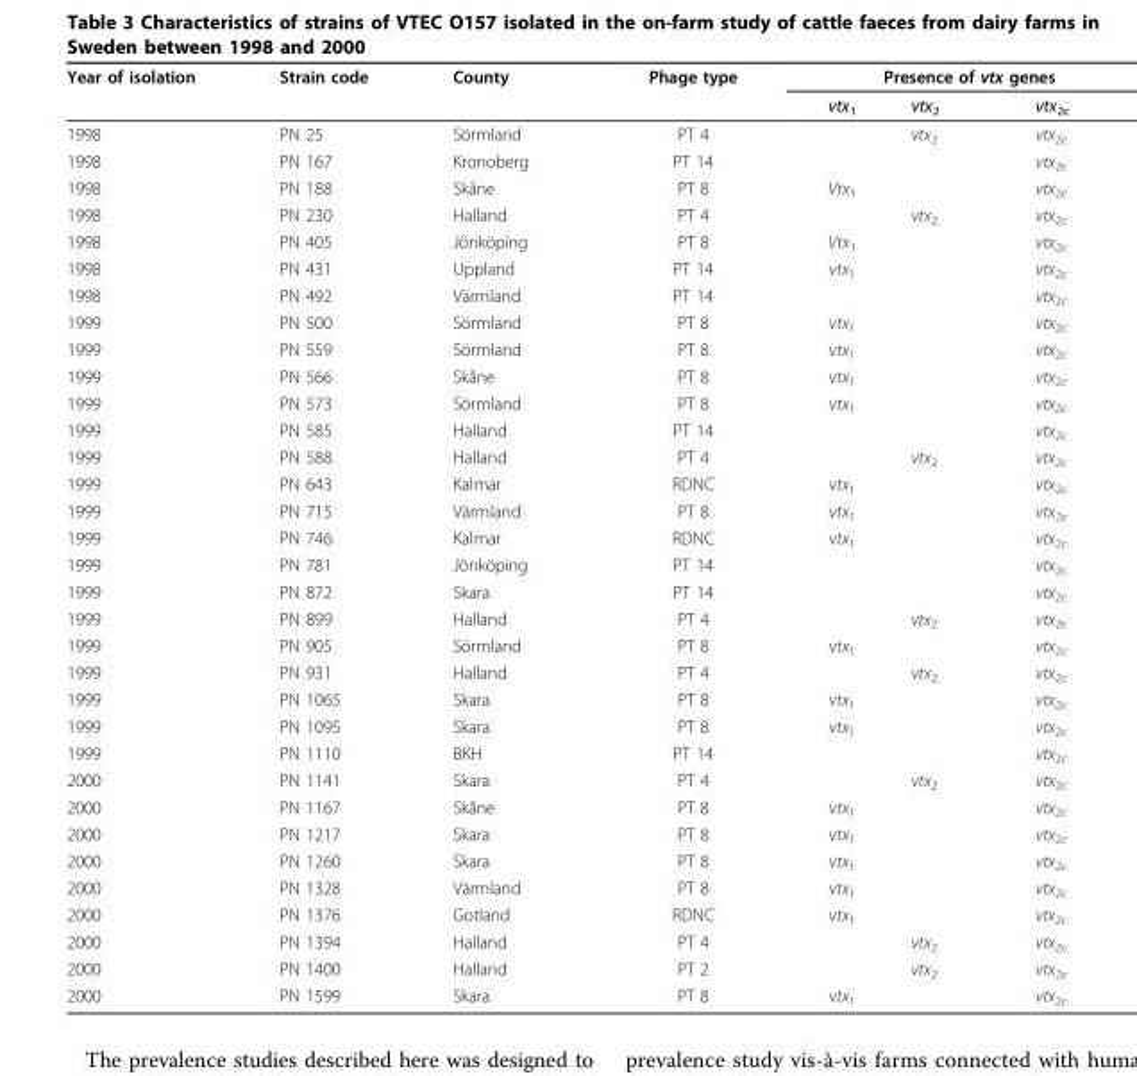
<table><thead><tr><td rowspan="2">Year of isolation</td><td rowspan="2">Strain code</td><td rowspan="2">County</td><td rowspan="2">Phage type</td><td colspan="3">Presence of vtx genes</td></tr><tr><td>vtx<sub>1</sub></td><td>vtx<sub>2</sub></td><td>vtx<sub>2c</sub></td></tr></thead><tbody><tr><td>1998</td><td>PN 25</td><td>Sörmland</td><td>PT 4</td><td></td><td>vtx<sub>2</sub></td><td>vtx<sub>2c</sub></td></tr><tr><td>1998</td><td>PN 167</td><td>Kronoberg</td><td>PT 14</td><td></td><td></td><td>vtx<sub>2c</sub></td></tr><tr><td>1998</td><td>PN 188</td><td>Skåne</td><td>PT 8</td><td>Vtx<sub>1</sub></td><td></td><td>vtx<sub>2c</sub></td></tr><tr><td>1998</td><td>PN 230</td><td>Halland</td><td>PT 4</td><td></td><td>vtx<sub>2</sub></td><td>vtx<sub>2c</sub></td></tr><tr><td>1998</td><td>PN 405</td><td>Jönköping</td><td>PT 8</td><td>Vtx<sub>1</sub></td><td></td><td>vtx<sub>2c</sub></td></tr><tr><td>1998</td><td>PN 431</td><td>Uppland</td><td>PT 14</td><td>vtx<sub>1</sub></td><td></td><td>vtx<sub>2c</sub></td></tr><tr><td>1998</td><td>PN 492</td><td>Värmland</td><td>PT 14</td><td></td><td></td><td>vtx<sub>2c</sub></td></tr><tr><td>1999</td><td>PN 500</td><td>Sörmland</td><td>PT 8</td><td>vtx<sub>1</sub></td><td></td><td>vtx<sub>2c</sub></td></tr><tr><td>1999</td><td>PN 559</td><td>Sörmland</td><td>PT 8</td><td>vtx<sub>1</sub></td><td></td><td>vtx<sub>2c</sub></td></tr><tr><td>1999</td><td>PN 566</td><td>Skåne</td><td>PT 8</td><td>vtx<sub>1</sub></td><td></td><td>vtx<sub>2c</sub></td></tr><tr><td>1999</td><td>PN 573</td><td>Sörmland</td><td>PT 8</td><td>vtx<sub>1</sub></td><td></td><td>vtx<sub>2c</sub></td></tr><tr><td>1999</td><td>PN 585</td><td>Halland</td><td>PT 14</td><td></td><td></td><td>vtx<sub>2c</sub></td></tr><tr><td>1999</td><td>PN 588</td><td>Halland</td><td>PT 4</td><td></td><td>vtx<sub>2</sub></td><td>vtx<sub>2c</sub></td></tr><tr><td>1999</td><td>PN 643</td><td>Kalmar</td><td>RDNC</td><td>vtx<sub>1</sub></td><td></td><td>vtx<sub>2c</sub></td></tr><tr><td>1999</td><td>PN 715</td><td>Värmland</td><td>PT 8</td><td>vtx<sub>1</sub></td><td></td><td>vtx<sub>2c</sub></td></tr><tr><td>1999</td><td>PN 746</td><td>Kalmar</td><td>RDNC</td><td>vtx<sub>1</sub></td><td></td><td>vtx<sub>2c</sub></td></tr><tr><td>1999</td><td>PN 781</td><td>Jönköping</td><td>PT 14</td><td></td><td></td><td>vtx<sub>2c</sub></td></tr><tr><td>1999</td><td>PN 872</td><td>Skara</td><td>PT 14</td><td></td><td></td><td>vtx<sub>2c</sub></td></tr><tr><td>1999</td><td>PN 899</td><td>Halland</td><td>PT 4</td><td></td><td>vtx<sub>2</sub></td><td>vtx<sub>2c</sub></td></tr><tr><td>1999</td><td>PN 905</td><td>Sörmland</td><td>PT 8</td><td>vtx<sub>1</sub></td><td></td><td>vtx<sub>2c</sub></td></tr><tr><td>1999</td><td>PN 931</td><td>Halland</td><td>PT 4</td><td></td><td>vtx<sub>2</sub></td><td>vtx<sub>2c</sub></td></tr><tr><td>1999</td><td>PN 1065</td><td>Skara</td><td>PT 8</td><td>vtx<sub>1</sub></td><td></td><td>vtx<sub>2c</sub></td></tr><tr><td>1999</td><td>PN 1095</td><td>Skara</td><td>PT 8</td><td>vtx<sub>1</sub></td><td></td><td>vtx<sub>2c</sub></td></tr><tr><td>1999</td><td>PN 1110</td><td>BKH</td><td>PT 14</td><td></td><td></td><td>vtx<sub>2c</sub></td></tr><tr><td>2000</td><td>PN 1141</td><td>Skara</td><td>PT 4</td><td></td><td>vtx<sub>2</sub></td><td>vtx<sub>2c</sub></td></tr><tr><td>2000</td><td>PN 1167</td><td>Skåne</td><td>PT 8</td><td>vtx<sub>1</sub></td><td></td><td>vtx<sub>2c</sub></td></tr><tr><td>2000</td><td>PN 1217</td><td>Skara</td><td>PT 8</td><td>vtx<sub>1</sub></td><td></td><td>vtx<sub>2c</sub></td></tr><tr><td>2000</td><td>PN 1260</td><td>Skara</td><td>PT 8</td><td>vtx<sub>1</sub></td><td></td><td>vtx<sub>2c</sub></td></tr><tr><td>2000</td><td>PN 1328</td><td>Värmland</td><td>PT 8</td><td>vtx<sub>1</sub></td><td></td><td>vtx<sub>2c</sub></td></tr><tr><td>2000</td><td>PN 1376</td><td>Gotland</td><td>RDNC</td><td>vtx<sub>1</sub></td><td></td><td>vtx<sub>2c</sub></td></tr><tr><td>2000</td><td>PN 1394</td><td>Halland</td><td>PT 4</td><td></td><td>vtx<sub>2</sub></td><td>vtx<sub>2c</sub></td></tr><tr><td>2000</td><td>PN 1400</td><td>Halland</td><td>PT 2</td><td></td><td>vtx<sub>2</sub></td><td>vtx<sub>2c</sub></td></tr><tr><td>2000</td><td>PN 1599</td><td>Skara</td><td>PT 8</td><td>vtx<sub>1</sub></td><td></td><td>vtx<sub>2c</sub></td></tr></tbody></table>